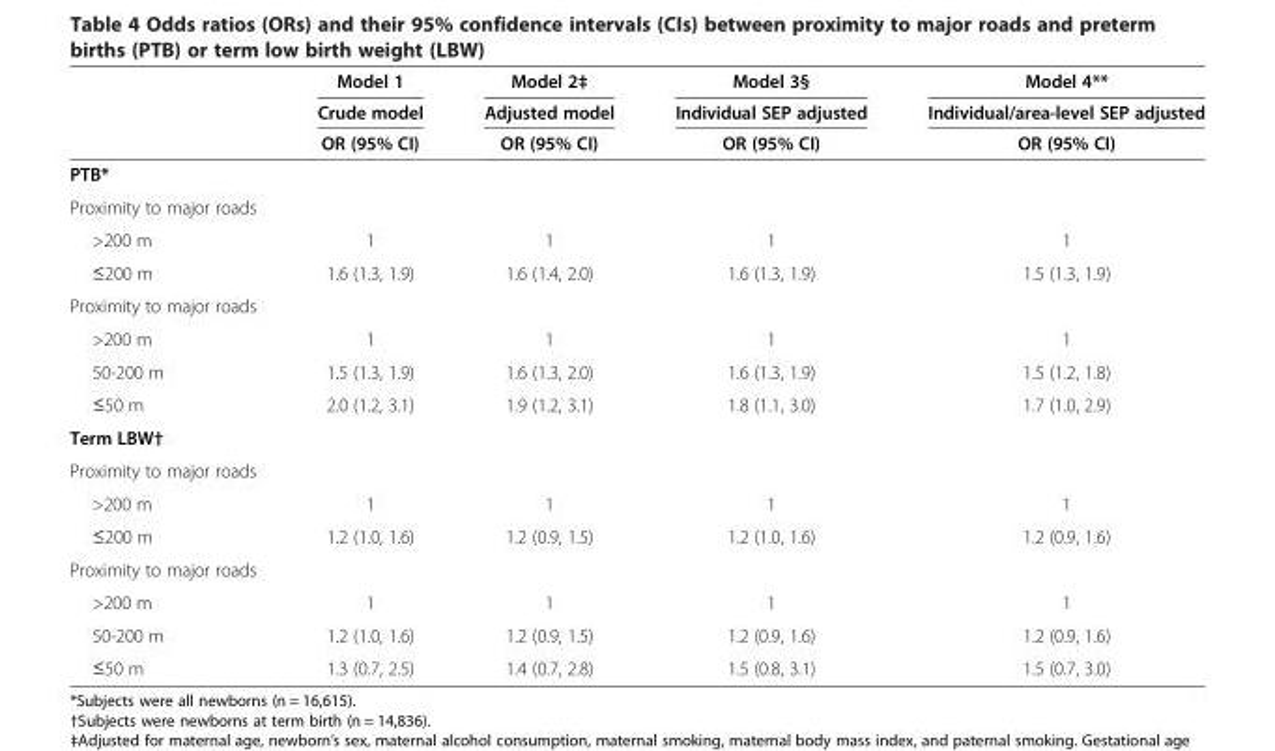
<table><thead><tr><td rowspan="3"></td><td rowspan="3">Model 1 Crude model OR (95% CI)</td><td rowspan="3">Model 2‡ Adjusted model OR (95% CI)</td><td rowspan="3">Model 3§ Individual SEP adjusted OR (95% CI)</td><td rowspan="3">Model 4** Individual/area-level SEP adjusted OR (95% CI)</td></tr><tr></tr><tr></tr></thead><tbody><tr><td colspan="5">PTB*</td></tr><tr><td colspan="5">Proximity to major roads</td></tr><tr><td>&gt;200 m</td><td>1</td><td>1</td><td>1</td><td>1</td></tr><tr><td>≤200 m</td><td>1.6 (1.3, 1.9)</td><td>1.6 (1.4, 2.0)</td><td>1.6 (1.3, 1.9)</td><td>1.5 (1.3, 1.9)</td></tr><tr><td colspan="5">Proximity to major roads</td></tr><tr><td>&gt;200 m</td><td>1</td><td>1</td><td>1</td><td>1</td></tr><tr><td>50-200 m</td><td>1.5 (1.3, 1.9)</td><td>1.6 (1.3, 2.0)</td><td>1.6 (1.3, 1.9)</td><td>1.5 (1.2, 1.8)</td></tr><tr><td>≤50 m</td><td>2.0 (1.2, 3.1)</td><td>1.9 (1.2, 3.1)</td><td>1.8 (1.1, 3.0)</td><td>1.7 (1.0, 2.9)</td></tr><tr><td colspan="5">Term LBW†</td></tr><tr><td colspan="5">Proximity to major roads</td></tr><tr><td>&gt;200 m</td><td>1</td><td>1</td><td>1</td><td>1</td></tr><tr><td>≤200 m</td><td>1.2 (1.0, 1.6)</td><td>1.2 (0.9, 1.5)</td><td>1.2 (1.0, 1.6)</td><td>1.2 (0.9, 1.6)</td></tr><tr><td colspan="5">Proximity to major roads</td></tr><tr><td>&gt;200 m</td><td>1</td><td>1</td><td>1</td><td>1</td></tr><tr><td>50-200 m</td><td>1.2 (1.0, 1.6)</td><td>1.2 (0.9, 1.5)</td><td>1.2 (0.9, 1.6)</td><td>1.2 (0.9, 1.6)</td></tr><tr><td>≤50 m</td><td>1.3 (0.7, 2.5)</td><td>1.4 (0.7, 2.8)</td><td>1.5 (0.8, 3.1)</td><td>1.5 (0.7, 3.0)</td></tr></tbody></table>